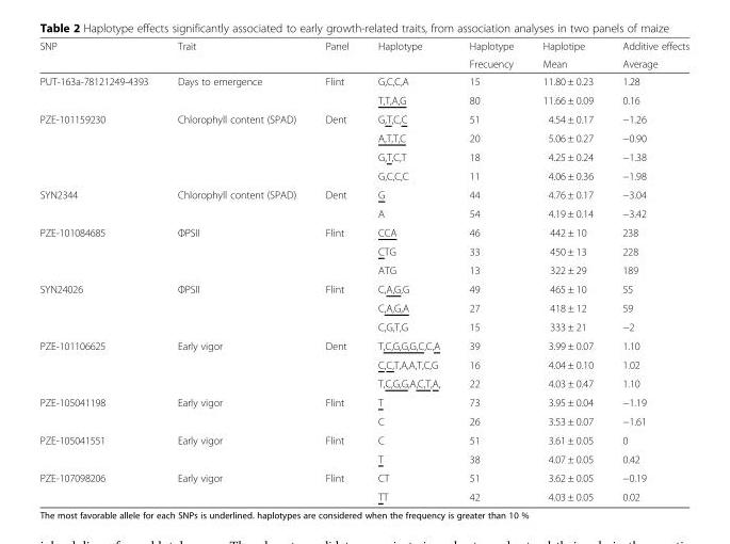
<table><thead><tr><td rowspan="2">SNP</td><td rowspan="2">Trait</td><td rowspan="2">Panel</td><td rowspan="2">Haplotype</td><td rowspan="2">Haplotype Frecuency</td><td rowspan="2">Haplotipe Mean</td><td rowspan="2">Additive effects Average</td></tr><tr></tr></thead><tbody><tr><td rowspan="2">PUT-163a-78121249-4393</td><td rowspan="2">Days to emergence</td><td rowspan="2">Flint</td><td>G,C,C,A</td><td>15</td><td>11.80 ± 0.23</td><td>1.28</td></tr><tr><td>T,T,A,G</td><td>80</td><td>11.66 ± 0.09</td><td>0.16</td></tr><tr><td rowspan="4">PZE-101159230</td><td rowspan="4">Chlorophyll content (SPAD)</td><td rowspan="4">Dent</td><td>G,T,C,C</td><td>51</td><td>4.54 ± 0.17</td><td>−1.26</td></tr><tr><td>A,T,T,C</td><td>20</td><td>5.06 ± 0.27</td><td>−0.90</td></tr><tr><td>G,T,C,T</td><td>18</td><td>4.25 ± 0.24</td><td>−1.38</td></tr><tr><td>G,C,C,C</td><td>11</td><td>4.06 ± 0.36</td><td>−1.98</td></tr><tr><td rowspan="2">SYN2344</td><td rowspan="2">Chlorophyll content (SPAD)</td><td rowspan="2">Dent</td><td>G</td><td>44</td><td>4.76 ± 0.17</td><td>−3.04</td></tr><tr><td>A</td><td>54</td><td>4.19 ± 0.14</td><td>−3.42</td></tr><tr><td rowspan="3">PZE-101084685</td><td rowspan="3">ΦPSII</td><td rowspan="3">Flint</td><td>CCA</td><td>46</td><td>442 ± 10</td><td>238</td></tr><tr><td>CTG</td><td>33</td><td>450 ± 13</td><td>228</td></tr><tr><td>ATG</td><td>13</td><td>322 ± 29</td><td>189</td></tr><tr><td rowspan="3">SYN24026</td><td rowspan="3">ΦPSII</td><td rowspan="3">Flint</td><td>C,A,G,G</td><td>49</td><td>465 ± 10</td><td>55</td></tr><tr><td>C,A,G,A</td><td>27</td><td>418 ± 12</td><td>59</td></tr><tr><td>C,G,T,G</td><td>15</td><td>333 ± 21</td><td>−2</td></tr><tr><td rowspan="3">PZE-101106625</td><td rowspan="3">Early vigor</td><td rowspan="3">Dent</td><td>T,C,G,G,G,C,C,A</td><td>39</td><td>3.99 ± 0.07</td><td>1.10</td></tr><tr><td>C,C,T,A,A,T,C,G</td><td>16</td><td>4.04 ± 0.10</td><td>1.02</td></tr><tr><td>T,C,G,G,A,C,T,A,</td><td>22</td><td>4.03 ± 0.47</td><td>1.10</td></tr><tr><td rowspan="2">PZE-105041198</td><td rowspan="2">Early vigor</td><td rowspan="2">Flint</td><td>T</td><td>73</td><td>3.95 ± 0.04</td><td>−1.19</td></tr><tr><td>C</td><td>26</td><td>3.53 ± 0.07</td><td>−1.61</td></tr><tr><td rowspan="2">PZE-105041551</td><td rowspan="2">Early vigor</td><td rowspan="2">Flint</td><td>C</td><td>51</td><td>3.61 ± 0.05</td><td>0</td></tr><tr><td>T</td><td>38</td><td>4.07 ± 0.05</td><td>0.42</td></tr><tr><td rowspan="2">PZE-107098206</td><td rowspan="2">Early vigor</td><td rowspan="2">Flint</td><td>CT</td><td>51</td><td>3.62 ± 0.05</td><td>−0.19</td></tr><tr><td>TT</td><td>42</td><td>4.03 ± 0.05</td><td>0.02</td></tr></tbody></table>